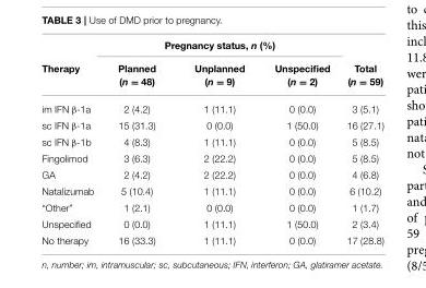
<table><thead><tr><td rowspan="2">Therapy</td><td colspan="3">Pregnancy status, n (%)</td><td rowspan="2">Total (n = 59)</td></tr><tr><td>Planned (n = 48)</td><td>Unplanned (n = 9)</td><td>Unspecified (n = 2)</td></tr></thead><tbody><tr><td>im IFN β-1a</td><td>2 (4.2)</td><td>1 (11.1)</td><td>0 (0.0)</td><td>3 (5.1)</td></tr><tr><td>sc IFN β-1a</td><td>15 (31.3)</td><td>0 (0.0)</td><td>1 (50.0)</td><td>16 (27.1)</td></tr><tr><td>sc IFN β-1b</td><td>4 (8.3)</td><td>1 (11.1)</td><td>0 (0.0)</td><td>5 (8.5)</td></tr><tr><td>Fingolimod</td><td>3 (6.3)</td><td>2 (22.2)</td><td>0 (0.0)</td><td>5 (8.5)</td></tr><tr><td>GA</td><td>2 (4.2)</td><td>2 (22.2)</td><td>0 (0.0)</td><td>4 (6.8)</td></tr><tr><td>Natalizumab</td><td>5 (10.4)</td><td>1 (11.1)</td><td>0 (0.0)</td><td>6 (10.2)</td></tr><tr><td>“Other”</td><td>1 (2.1)</td><td>0 (0.0)</td><td>0 (0.0)</td><td>1 (1.7)</td></tr><tr><td>Unspecified</td><td>0 (0.0)</td><td>1 (11.1)</td><td>1 (50.0)</td><td>2 (3.4)</td></tr><tr><td>No therapy</td><td>16 (33.3)</td><td>1 (11.1)</td><td>0 (0.0)</td><td>17 (28.8)</td></tr></tbody></table>